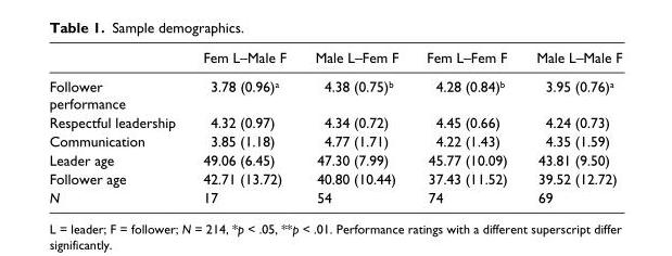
<table><thead><tr><td></td><td>Fem L–Male F</td><td>Male L–Fem F</td><td>Fem L–Fem F</td><td>Male L–Male F</td></tr></thead><tbody><tr><td>Follower performance</td><td>3.78 (0.96)<sup>a</sup></td><td>4.38 (0.75)<sup>b</sup></td><td>4.28 (0.84)<sup>b</sup></td><td>3.95 (0.76)<sup>a</sup></td></tr><tr><td>Respectful leadership</td><td>4.32 (0.97)</td><td>4.34 (0.72)</td><td>4.45 (0.66)</td><td>4.24 (0.73)</td></tr><tr><td>Communication</td><td>3.85 (1.18)</td><td>4.77 (1.71)</td><td>4.22 (1.43)</td><td>4.35 (1.59)</td></tr><tr><td>Leader age</td><td>49.06 (6.45)</td><td>47.30 (7.99)</td><td>45.77 (10.09)</td><td>43.81 (9.50)</td></tr><tr><td>Follower age</td><td>42.71 (13.72)</td><td>40.80 (10.44)</td><td>37.43 (11.52)</td><td>39.52 (12.72)</td></tr><tr><td>N</td><td>17</td><td>54</td><td>74</td><td>69</td></tr></tbody></table>